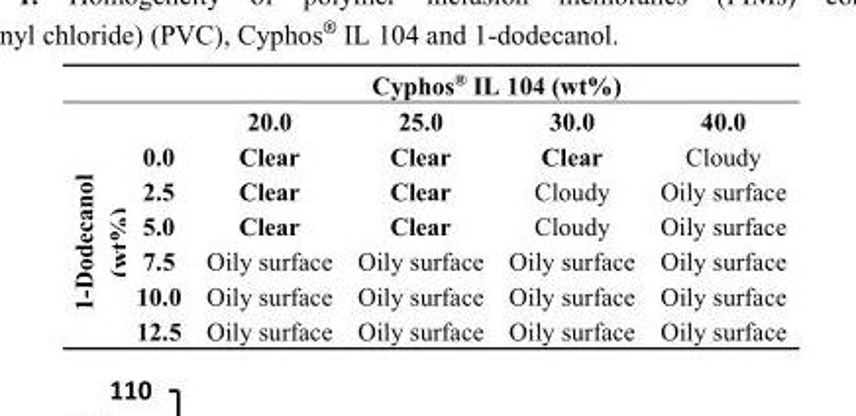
<table><thead><tr><td rowspan="2"></td><td rowspan="2"></td><td colspan="4">Cyphos<sup>®</sup> IL 104 (wt%)</td></tr><tr><td>20.0</td><td>25.0</td><td>30.0</td><td>40.0</td></tr></thead><tbody><tr><td rowspan="6">1-Dodecanol (wt%)</td><td>0.0</td><td>Clear</td><td>Clear</td><td>Clear</td><td>Cloudy</td></tr><tr><td>2.5</td><td>Clear</td><td>Clear</td><td>Cloudy</td><td>Oily surface</td></tr><tr><td>5.0</td><td>Clear</td><td>Clear</td><td>Cloudy</td><td>Oily surface</td></tr><tr><td>7.5</td><td>Oily surface</td><td>Oily surface</td><td>Oily surface</td><td>Oily surface</td></tr><tr><td>10.0</td><td>Oily surface</td><td>Oily surface</td><td>Oily surface</td><td>Oily surface</td></tr><tr><td>12.5</td><td>Oily surface</td><td>Oily surface</td><td>Oily surface</td><td>Oily surface</td></tr></tbody></table>